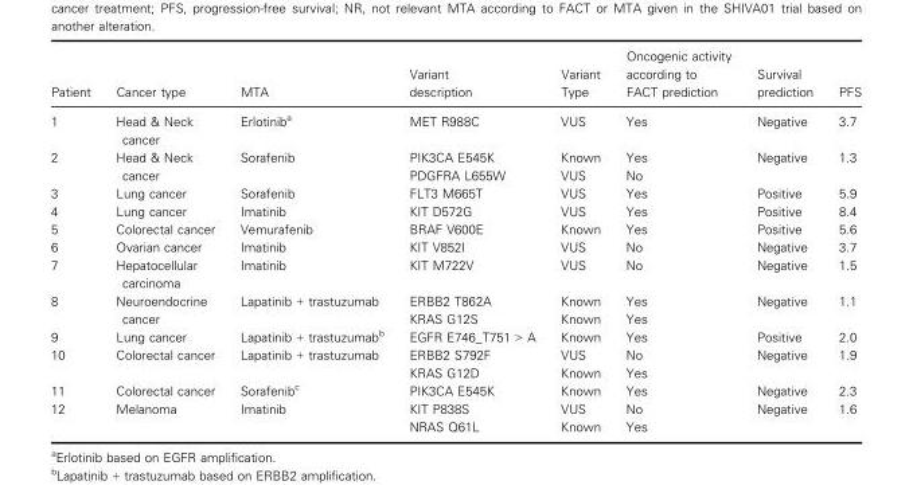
<table><thead><tr><td>Patient</td><td>Cancer type</td><td>MTA</td><td>Variant description</td><td>Variant Type</td><td>Oncogenic activity according to FACT prediction</td><td>Survival prediction</td><td>PFS</td></tr></thead><tbody><tr><td>1</td><td>Head &amp; Neck cancer</td><td>Erlotinib<sup>a</sup></td><td>MET R988C</td><td>VUS</td><td>Yes</td><td>Negative</td><td>3.7</td></tr><tr><td rowspan="2">2</td><td rowspan="2">Head &amp; Neck cancer</td><td rowspan="2">Sorafenib</td><td>PIK3CA E545K</td><td>Known</td><td>Yes</td><td rowspan="2">Negative</td><td rowspan="2">1.3</td></tr><tr><td>PDGFRA L655W</td><td>VUS</td><td>No</td></tr><tr><td>3</td><td>Lung cancer</td><td>Sorafenib</td><td>FLT3 M665T</td><td>VUS</td><td>Yes</td><td>Positive</td><td>5.9</td></tr><tr><td>4</td><td>Lung cancer</td><td>Imatinib</td><td>KIT D572G</td><td>VUS</td><td>Yes</td><td>Positive</td><td>8.4</td></tr><tr><td>5</td><td>Colorectal cancer</td><td>Vemurafenib</td><td>BRAF V600E</td><td>Known</td><td>Yes</td><td>Positive</td><td>5.6</td></tr><tr><td>6</td><td>Ovarian cancer</td><td>Imatinib</td><td>KIT V852I</td><td>VUS</td><td>No</td><td>Negative</td><td>3.7</td></tr><tr><td>7</td><td>Hepatocellular carcinoma</td><td>Imatinib</td><td>KIT M722V</td><td>VUS</td><td>No</td><td>Negative</td><td>1.5</td></tr><tr><td rowspan="2">8</td><td rowspan="2">Neuroendocrine cancer</td><td rowspan="2">Lapatinib + trastuzumab</td><td>ERBB2 T862A</td><td>Known</td><td>Yes</td><td rowspan="2">Negative</td><td rowspan="2">1.1</td></tr><tr><td>KRAS G12S</td><td>Known</td><td>Yes</td></tr><tr><td>9</td><td>Lung cancer</td><td>Lapatinib + trastuzumab<sup>b</sup></td><td>EGFR E746_T751 &gt; A</td><td>Known</td><td>Yes</td><td>Positive</td><td>2.0</td></tr><tr><td rowspan="2">10</td><td rowspan="2">Colorectal cancer</td><td rowspan="2">Lapatinib + trastuzumab</td><td>ERBB2 S792F</td><td>VUS</td><td>No</td><td rowspan="2">Negative</td><td>1.9</td></tr><tr><td>KRAS G12D</td><td>Known</td><td>Yes</td><td></td></tr><tr><td>11</td><td>Colorectal cancer</td><td>Sorafenib<sup>c</sup></td><td>PIK3CA E545K</td><td>Known</td><td>Yes</td><td>Negative</td><td>2.3</td></tr><tr><td rowspan="2">12</td><td rowspan="2">Melanoma</td><td rowspan="2">Imatinib</td><td>KIT P838S</td><td>VUS</td><td>No</td><td rowspan="2">Negative</td><td rowspan="2">1.6</td></tr><tr><td>NRAS Q61L</td><td>Known</td><td>Yes</td></tr></tbody></table>